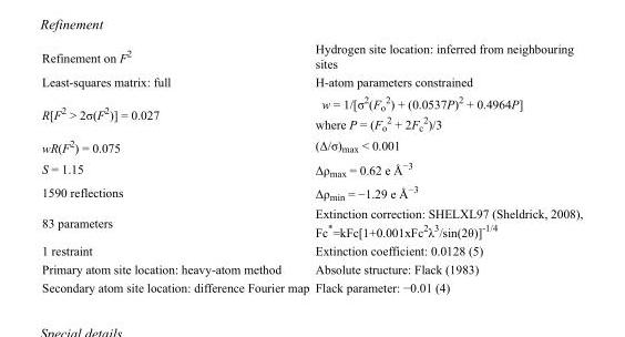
<table><tbody><tr><td>Refinement on F<sup>2</sup></td><td>Hydrogen site location: inferred from neighbouring sites</td></tr><tr><td>Least-squares matrix: full</td><td>H-atom parameters constrained</td></tr><tr><td>R[F<sup>2</sup> &gt; 2σ(F<sup>2</sup>)] = 0.027</td><td>w = 1/[σ<sup>2</sup>(F<sub>o</sub> <sup>2</sup>) + (0.0537P)<sup>2</sup> + 0.4964P] where P = (F<sub>o</sub> <sup>2</sup> + 2F<sub>c</sub> <sup>2</sup>)/3</td></tr><tr><td>wR(F<sup>2</sup>) = 0.075</td><td>(Δ/σ)<sub>max</sub> &lt; 0.001</td></tr><tr><td>S = 1.15</td><td>Δρ<sub>max</sub> = 0.62 e Å<sup>−3</sup></td></tr><tr><td>1590 reflections</td><td>Δρ<sub>min</sub> = −1.29 e Å<sup>−3</sup></td></tr><tr><td>83 parameters</td><td>Extinction correction: SHELXL97 (Sheldrick, 2008), Fc*=kFc[1+0.001xFc<sup>2</sup>λ<sup>3</sup>/sin(2θ)]<sup>-1/4</sup></td></tr><tr><td>1 restraint</td><td>Extinction coefficient: 0.0128 (5)</td></tr><tr><td>Primary atom site location: heavy-atom method</td><td>Absolute structure: Flack (1983)</td></tr><tr><td>Secondary atom site location: difference Fourier map</td><td>Flack parameter: −0.01 (4)</td></tr></tbody></table>